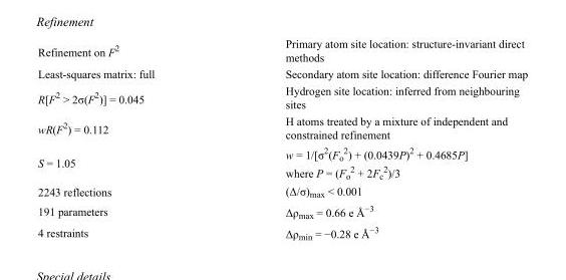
<table><tbody><tr><td>Refinement on F<sup>2</sup></td><td>Primary atom site location: structure-invariant direct methods</td></tr><tr><td>Least-squares matrix: full</td><td>Secondary atom site location: difference Fourier map</td></tr><tr><td>R[F<sup>2</sup> &gt; 2σ(F<sup>2</sup>)] = 0.045</td><td>Hydrogen site location: inferred from neighbouring sites</td></tr><tr><td>wR(F<sup>2</sup>) = 0.112</td><td>H atoms treated by a mixture of independent and constrained refinement</td></tr><tr><td>S = 1.05</td><td>w = 1/[σ<sup>2</sup>(F<sub>o</sub> <sup>2</sup>) + (0.0439P)<sup>2</sup> + 0.4685P] where P = (F<sub>o</sub> <sup>2</sup> + 2F<sub>c</sub> <sup>2</sup>)/3</td></tr><tr><td>2243 reflections</td><td>(Δ/σ)<sub>max</sub> &lt; 0.001</td></tr><tr><td>191 parameters</td><td>Δρ<sub>max</sub> = 0.66 e Å<sup>−3</sup></td></tr><tr><td>4 restraints</td><td>Δρ<sub>min</sub> = −0.28 e Å<sup>−3</sup></td></tr></tbody></table>